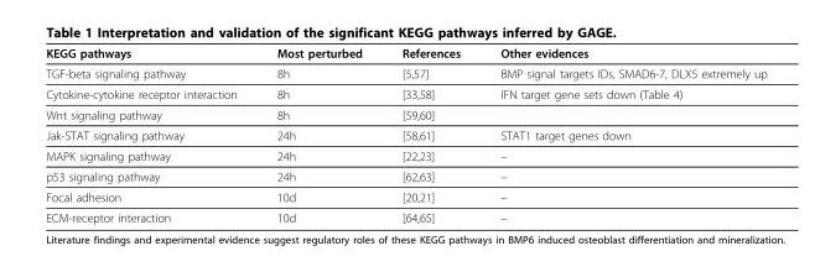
<table><thead><tr><td>KEGG pathways</td><td>Most perturbed</td><td>References</td><td>Other evidences</td></tr></thead><tbody><tr><td>TGF-beta signaling pathway</td><td>8h</td><td>[5,57]</td><td>BMP signal targets IDs, SMAD6-7, DLX5 extremely up</td></tr><tr><td>Cytokine-cytokine receptor interaction</td><td>8h</td><td>[33,58]</td><td>IFN target gene sets down (Table 4)</td></tr><tr><td>Wnt signaling pathway</td><td>8h</td><td>[59,60]</td><td></td></tr><tr><td>Jak-STAT signaling pathway</td><td>24h</td><td>[58,61]</td><td>STAT1 target genes down</td></tr><tr><td>MAPK signaling pathway</td><td>24h</td><td>[22,23]</td><td>–</td></tr><tr><td>p53 signaling pathway</td><td>24h</td><td>[62,63]</td><td>–</td></tr><tr><td>Focal adhesion</td><td>10d</td><td>[20,21]</td><td>–</td></tr><tr><td>ECM-receptor interaction</td><td>10d</td><td>[64,65]</td><td>–</td></tr></tbody></table>